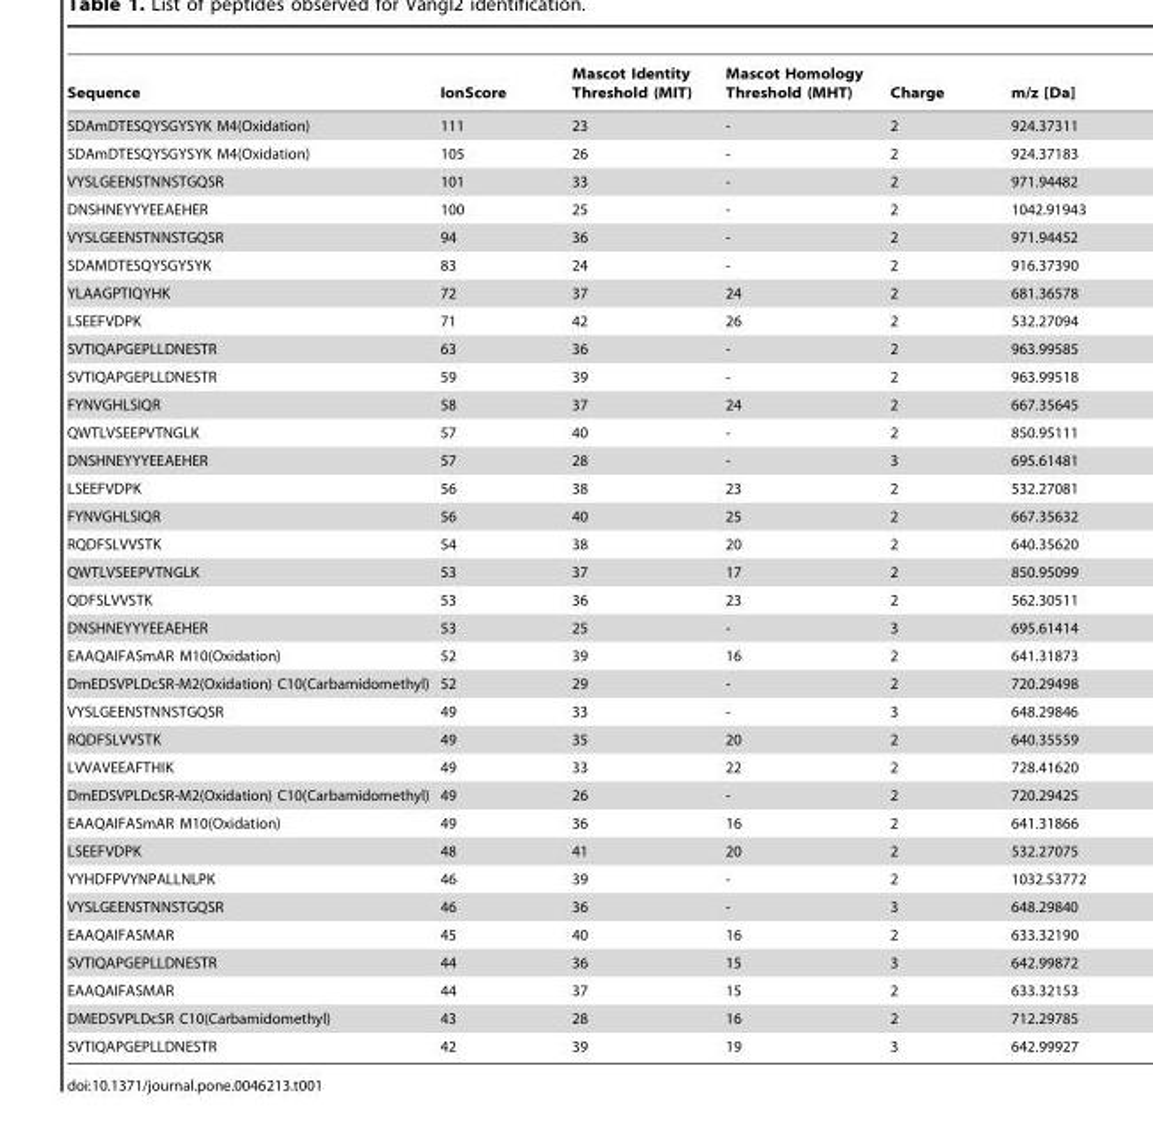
<table><thead><tr><td>Sequence</td><td>IonScore</td><td>Mascot Identity Threshold (MIT)</td><td>Mascot Homology Threshold (MHT)</td><td>Charge</td><td>m/z [Da]</td></tr></thead><tbody><tr><td>SDAmDTESQYSGYSYK M4(Oxidation)</td><td>111</td><td>23</td><td>-</td><td>2</td><td>924.37311</td></tr><tr><td>SDAmDTESQYSGYSYK M4(Oxidation)</td><td>105</td><td>26</td><td>-</td><td>2</td><td>924.37183</td></tr><tr><td>VYSLGEENSTNNSTGQSR</td><td>101</td><td>33</td><td>-</td><td>2</td><td>971.94482</td></tr><tr><td>DNSHNEYYYEEAEHER</td><td>100</td><td>25</td><td>-</td><td>2</td><td>1042.91943</td></tr><tr><td>VYSLGEENSTNNSTGQSR</td><td>94</td><td>36</td><td>-</td><td>2</td><td>971.94452</td></tr><tr><td>SDAMDTESQYSGYSYK</td><td>83</td><td>24</td><td>-</td><td>2</td><td>916.37390</td></tr><tr><td>YLAAGPTIQYHK</td><td>72</td><td>37</td><td>24</td><td>2</td><td>681.36578</td></tr><tr><td>LSEEFVDPK</td><td>71</td><td>42</td><td>26</td><td>2</td><td>532.27094</td></tr><tr><td>SVTIQAPGEPLLDNESTR</td><td>63</td><td>36</td><td>-</td><td>2</td><td>963.99585</td></tr><tr><td>SVTIQAPGEPLLDNESTR</td><td>59</td><td>39</td><td>-</td><td>2</td><td>963.99518</td></tr><tr><td>FYNVGHLSIQR</td><td>58</td><td>37</td><td>24</td><td>2</td><td>667.35645</td></tr><tr><td>QWTLVSEEPVTNGLK</td><td>57</td><td>40</td><td>-</td><td>2</td><td>850.95111</td></tr><tr><td>DNSHNEYYYEEAEHER</td><td>57</td><td>28</td><td>-</td><td>3</td><td>695.61481</td></tr><tr><td>LSEEFVDPK</td><td>56</td><td>38</td><td>23</td><td>2</td><td>532.27081</td></tr><tr><td>FYNVGHLSIQR</td><td>56</td><td>40</td><td>25</td><td>2</td><td>667.35632</td></tr><tr><td>RQDFSLVVSTK</td><td>54</td><td>38</td><td>20</td><td>2</td><td>640.35620</td></tr><tr><td>QWTLVSEEPVTNGLK</td><td>53</td><td>37</td><td>17</td><td>2</td><td>850.95099</td></tr><tr><td>QDFSLVVSTK</td><td>53</td><td>36</td><td>23</td><td>2</td><td>562.30511</td></tr><tr><td>DNSHNEYYYEEAEHER</td><td>53</td><td>25</td><td>-</td><td>3</td><td>695.61414</td></tr><tr><td>EAAQAIFASmAR M10(Oxidation)</td><td>52</td><td>39</td><td>16</td><td>2</td><td>641.31873</td></tr><tr><td>DmEDSVPLDcSR-M2(Oxidation) C10(Carbamidomethyl)</td><td>52</td><td>29</td><td>-</td><td>2</td><td>720.29498</td></tr><tr><td>VYSLGEENSTNNSTGQSR</td><td>49</td><td>33</td><td>-</td><td>3</td><td>648.29846</td></tr><tr><td>RQDFSLVVSTK</td><td>49</td><td>35</td><td>20</td><td>2</td><td>640.35559</td></tr><tr><td>LVVAVEEAFTHIK</td><td>49</td><td>33</td><td>22</td><td>2</td><td>728.41620</td></tr><tr><td>DmEDSVPLDcSR-M2(Oxidation) C10(Carbamidomethyl)</td><td>49</td><td>26</td><td>-</td><td>2</td><td>720.29425</td></tr><tr><td>EAAQAIFASmAR M10(Oxidation)</td><td>49</td><td>36</td><td>16</td><td>2</td><td>641.31866</td></tr><tr><td>LSEEFVDPK</td><td>48</td><td>41</td><td>20</td><td>2</td><td>532.27075</td></tr><tr><td>YYHDFPVYNPALLNLPK</td><td>46</td><td>39</td><td>-</td><td>2</td><td>1032.53772</td></tr><tr><td>VYSLGEENSTNNSTGQSR</td><td>46</td><td>36</td><td>-</td><td>3</td><td>648.29840</td></tr><tr><td>EAAQAIFASMAR</td><td>45</td><td>40</td><td>16</td><td>2</td><td>633.32190</td></tr><tr><td>SVTIQAPGEPLLDNESTR</td><td>44</td><td>36</td><td>15</td><td>3</td><td>642.99872</td></tr><tr><td>EAAQAIFASMAR</td><td>44</td><td>37</td><td>15</td><td>2</td><td>633.32153</td></tr><tr><td>DMEDSVPLDcSR C10(Carbamidomethyl)</td><td>43</td><td>28</td><td>16</td><td>2</td><td>712.29785</td></tr><tr><td>SVTIQAPGEPLLDNESTR</td><td>42</td><td>39</td><td>19</td><td>3</td><td>642.99927</td></tr></tbody></table>